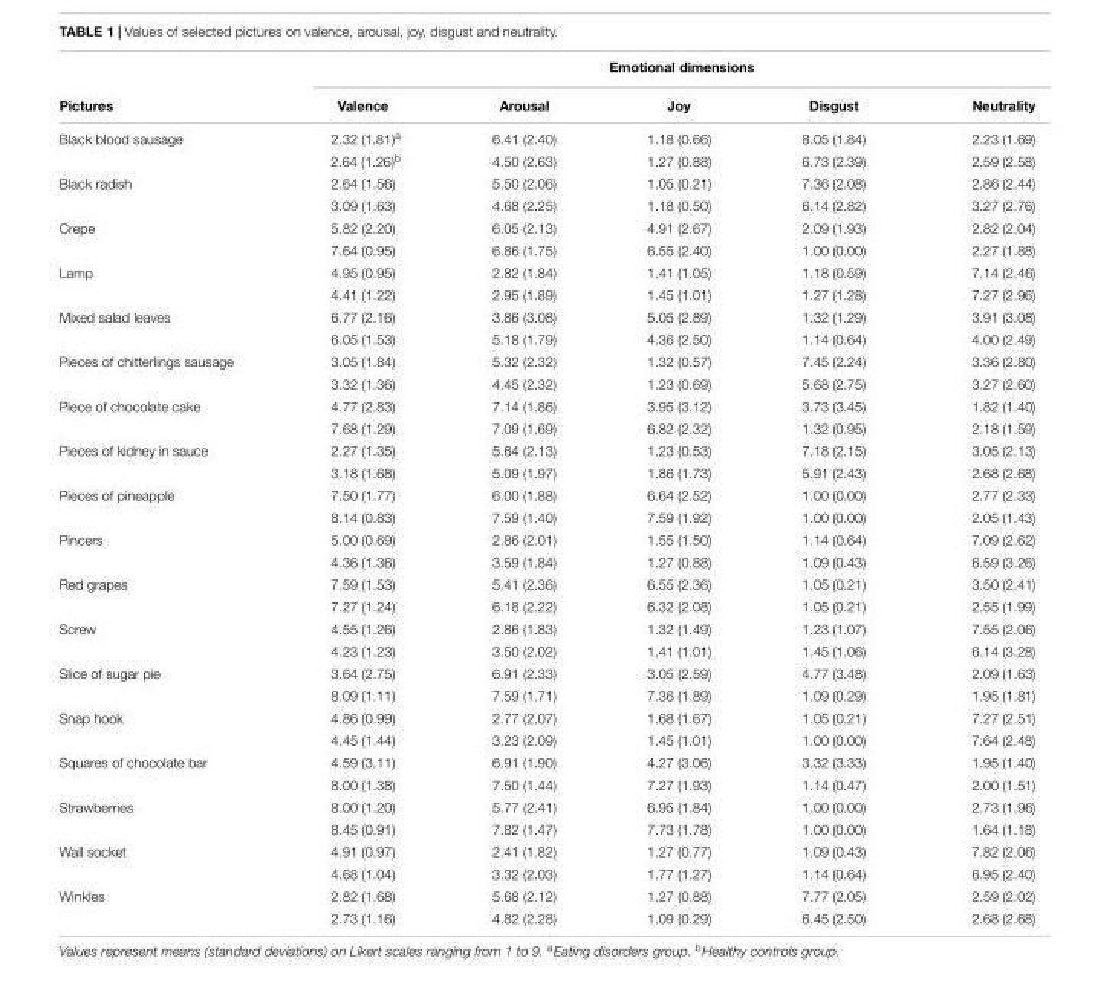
<table><thead><tr><td rowspan="2">Pictures</td><td colspan="5">Emotional dimensions</td></tr><tr><td>Valence</td><td>Arousal</td><td>Joy</td><td>Disgust</td><td>Neutrality</td></tr></thead><tbody><tr><td rowspan="2">Black blood sausage</td><td>2.32 (1.81)<sup>a</sup></td><td>6.41 (2.40)</td><td>1.18 (0.66)</td><td>8.05 (1.84)</td><td>2.23 (1.69)</td></tr><tr><td>2.64 (1.26)<sup>b</sup></td><td>4.50 (2.63)</td><td>1.27 (0.88)</td><td>6.73 (2.39)</td><td>2.59 (2.58)</td></tr><tr><td rowspan="2">Black radish</td><td>2.64 (1.56)</td><td>5.50 (2.06)</td><td>1.05 (0.21)</td><td>7.36 (2.08)</td><td>2.86 (2.44)</td></tr><tr><td>3.09 (1.63)</td><td>4.68 (2.25)</td><td>1.18 (0.50)</td><td>6.14 (2.82)</td><td>3.27 (2.76)</td></tr><tr><td rowspan="2">Crepe</td><td>5.82 (2.20)</td><td>6.05 (2.13)</td><td>4.91 (2.67)</td><td>2.09 (1.93)</td><td>2.82 (2.04)</td></tr><tr><td>7.64 (0.95)</td><td>6.86 (1.75)</td><td>6.55 (2.40)</td><td>1.00 (0.00)</td><td>2.27 (1.88)</td></tr><tr><td rowspan="2">Lamp</td><td>4.95 (0.95)</td><td>2.82 (1.84)</td><td>1.41 (1.05)</td><td>1.18 (0.59)</td><td>7.14 (2.46)</td></tr><tr><td>4.41 (1.22)</td><td>2.95 (1.89)</td><td>1.45 (1.01)</td><td>1.27 (1.28)</td><td>7.27 (2.96)</td></tr><tr><td rowspan="2">Mixed salad leaves</td><td>6.77 (2.16)</td><td>3.86 (3.08)</td><td>5.05 (2.89)</td><td>1.32 (1.29)</td><td>3.91 (3.08)</td></tr><tr><td>6.05 (1.53)</td><td>5.18 (1.79)</td><td>4.36 (2.50)</td><td>1.14 (0.64)</td><td>4.00 (2.49)</td></tr><tr><td rowspan="2">Pieces of chitterlings sausage</td><td>3.05 (1.84)</td><td>5.32 (2.32)</td><td>1.32 (0.57)</td><td>7.45 (2.24)</td><td>3.36 (2.80)</td></tr><tr><td>3.32 (1.36)</td><td>4.45 (2.32)</td><td>1.23 (0.69)</td><td>5.68 (2.75)</td><td>3.27 (2.60)</td></tr><tr><td rowspan="2">Piece of chocolate cake</td><td>4.77 (2.83)</td><td>7.14 (1.86)</td><td>3.95 (3.12)</td><td>3.73 (3.45)</td><td>1.82 (1.40)</td></tr><tr><td>7.68 (1.29)</td><td>7.09 (1.69)</td><td>6.82 (2.32)</td><td>1.32 (0.95)</td><td>2.18 (1.59)</td></tr><tr><td rowspan="2">Pieces of kidney in sauce</td><td>2.27 (1.35)</td><td>5.64 (2.13)</td><td>1.23 (0.53)</td><td>7.18 (2.15)</td><td>3.05 (2.13)</td></tr><tr><td>3.18 (1.68)</td><td>5.09 (1.97)</td><td>1.86 (1.73)</td><td>5.91 (2.43)</td><td>2.68 (2.68)</td></tr><tr><td rowspan="2">Pieces of pineapple</td><td>7.50 (1.77)</td><td>6.00 (1.88)</td><td>6.64 (2.52)</td><td>1.00 (0.00)</td><td>2.77 (2.33)</td></tr><tr><td>8.14 (0.83)</td><td>7.59 (1.40)</td><td>7.59 (1.92)</td><td>1.00 (0.00)</td><td>2.05 (1.43)</td></tr><tr><td rowspan="2">Pincers</td><td>5.00 (0.69)</td><td>2.86 (2.01)</td><td>1.55 (1.50)</td><td>1.14 (0.64)</td><td>7.09 (2.62)</td></tr><tr><td>4.36 (1.36)</td><td>3.59 (1.84)</td><td>1.27 (0.88)</td><td>1.09 (0.43)</td><td>6.59 (3.26)</td></tr><tr><td rowspan="2">Red grapes</td><td>7.59 (1.53)</td><td>5.41 (2.36)</td><td>6.55 (2.36)</td><td>1.05 (0.21)</td><td>3.50 (2.41)</td></tr><tr><td>7.27 (1.24)</td><td>6.18 (2.22)</td><td>6.32 (2.08)</td><td>1.05 (0.21)</td><td>2.55 (1.99)</td></tr><tr><td rowspan="2">Screw</td><td>4.55 (1.26)</td><td>2.86 (1.83)</td><td>1.32 (1.49)</td><td>1.23 (1.07)</td><td>7.55 (2.06)</td></tr><tr><td>4.23 (1.23)</td><td>3.50 (2.02)</td><td>1.41 (1.01)</td><td>1.45 (1.06)</td><td>6.14 (3.28)</td></tr><tr><td rowspan="2">Slice of sugar pie</td><td>3.64 (2.75)</td><td>6.91 (2.33)</td><td>3.05 (2.59)</td><td>4.77 (3.48)</td><td>2.09 (1.63)</td></tr><tr><td>8.09 (1.11)</td><td>7.59 (1.71)</td><td>7.36 (1.89)</td><td>1.09 (0.29)</td><td>1.95 (1.81)</td></tr><tr><td rowspan="2">Snap hook</td><td>4.86 (0.99)</td><td>2.77 (2.07)</td><td>1.68 (1.67)</td><td>1.05 (0.21)</td><td>7.27 (2.51)</td></tr><tr><td>4.45 (1.44)</td><td>3.23 (2.09)</td><td>1.45 (1.01)</td><td>1.00 (0.00)</td><td>7.64 (2.48)</td></tr><tr><td rowspan="2">Squares of chocolate bar</td><td>4.59 (3.11)</td><td>6.91 (1.90)</td><td>4.27 (3.06)</td><td>3.32 (3.33)</td><td>1.95 (1.40)</td></tr><tr><td>8.00 (1.38)</td><td>7.50 (1.44)</td><td>7.27 (1.93)</td><td>1.14 (0.47)</td><td>2.00 (1.51)</td></tr><tr><td rowspan="2">Strawberries</td><td>8.00 (1.20)</td><td>5.77 (2.41)</td><td>6.95 (1.84)</td><td>1.00 (0.00)</td><td>2.73 (1.96)</td></tr><tr><td>8.45 (0.91)</td><td>7.82 (1.47)</td><td>7.73 (1.78)</td><td>1.00 (0.00)</td><td>1.64 (1.18)</td></tr><tr><td rowspan="2">Wall socket</td><td>4.91 (0.97)</td><td>2.41 (1.82)</td><td>1.27 (0.77)</td><td>1.09 (0.43)</td><td>7.82 (2.06)</td></tr><tr><td>4.68 (1.04)</td><td>3.32 (2.03)</td><td>1.77 (1.27)</td><td>1.14 (0.64)</td><td>6.95 (2.40)</td></tr><tr><td rowspan="2">Winkles</td><td>2.82 (1.68)</td><td>5.68 (2.12)</td><td>1.27 (0.88)</td><td>7.77 (2.05)</td><td>2.59 (2.02)</td></tr><tr><td>2.73 (1.16)</td><td>4.82 (2.28)</td><td>1.09 (0.29)</td><td>6.45 (2.50)</td><td>2.68 (2.68)</td></tr></tbody></table>